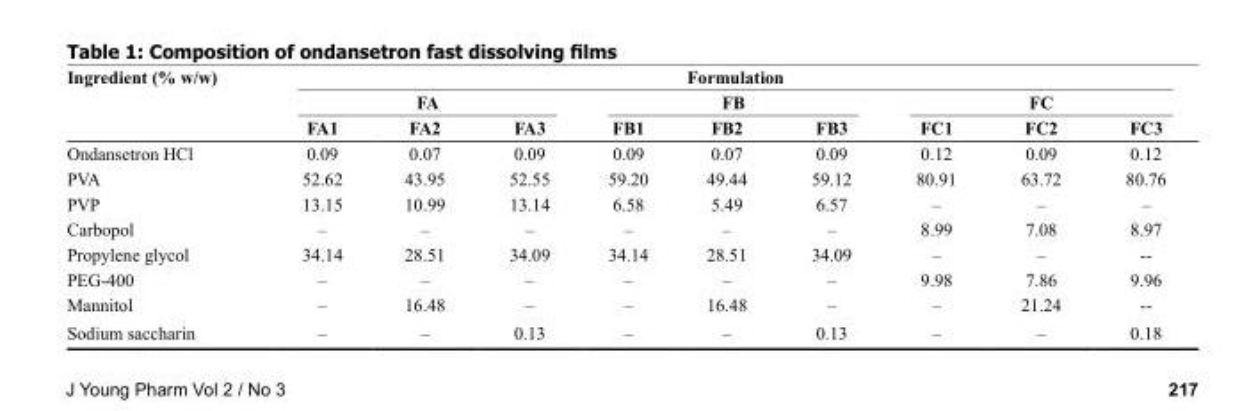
<table><thead><tr><td rowspan="3">Ingredient (% w/w)</td><td colspan="9">Formulation</td></tr><tr><td colspan="3">FA</td><td colspan="3">FB</td><td colspan="3">FC</td></tr><tr><td>FA1</td><td>FA2</td><td>FA3</td><td>FB1</td><td>FB2</td><td>FB3</td><td>FC1</td><td>FC2</td><td>FC3</td></tr></thead><tbody><tr><td>Ondansetron HCl</td><td>0.09</td><td>0.07</td><td>0.09</td><td>0.09</td><td>0.07</td><td>0.09</td><td>0.12</td><td>0.09</td><td>0.12</td></tr><tr><td>PVA</td><td>52.62</td><td>43.95</td><td>52.55</td><td>59.20</td><td>49.44</td><td>59.12</td><td>80.91</td><td>63.72</td><td>80.76</td></tr><tr><td>PVP</td><td>13.15</td><td>10.99</td><td>13.14</td><td>6.58</td><td>5.49</td><td>6.57</td><td>–</td><td>–</td><td>–</td></tr><tr><td>Carbopol</td><td>–</td><td>–</td><td>–</td><td>–</td><td>–</td><td>–</td><td>8.99</td><td>7.08</td><td>8.97</td></tr><tr><td>Propylene glycol</td><td>34.14</td><td>28.51</td><td>34.09</td><td>34.14</td><td>28.51</td><td>34.09</td><td>–</td><td>–</td><td>--</td></tr><tr><td>PEG-400</td><td>–</td><td>–</td><td>–</td><td>–</td><td>–</td><td>–</td><td>9.98</td><td>7.86</td><td>9.96</td></tr><tr><td>Mannitol</td><td>–</td><td>16.48</td><td>–</td><td>–</td><td>16.48</td><td>–</td><td>–</td><td>21.24</td><td>--</td></tr><tr><td>Sodium saccharin</td><td>–</td><td>–</td><td>0.13</td><td>–</td><td>–</td><td>0.13</td><td>–</td><td>–</td><td>0.18</td></tr></tbody></table>